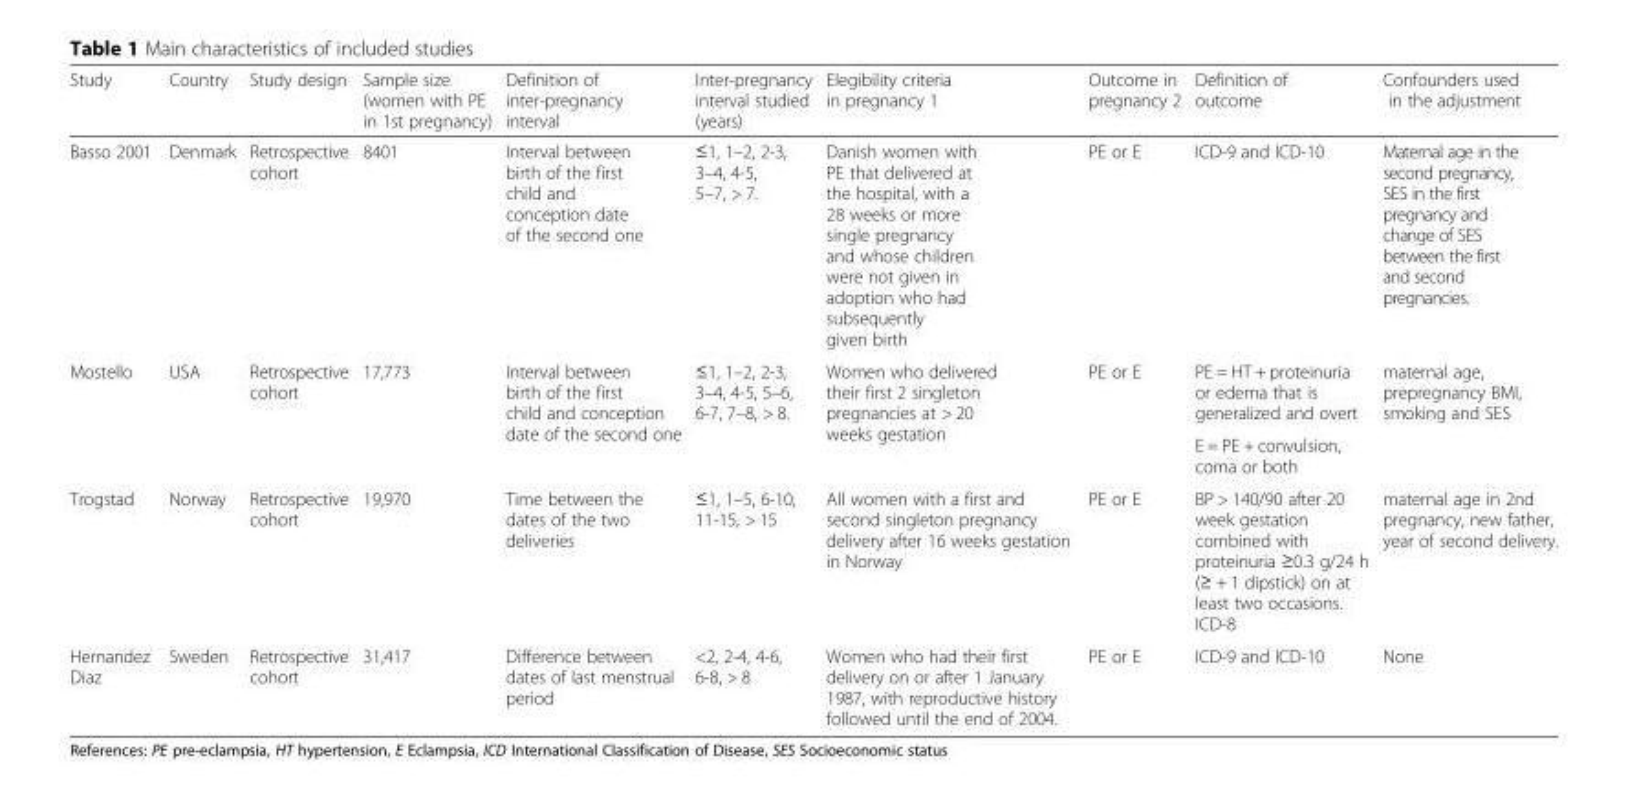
<table><thead><tr><td>Study</td><td>Country</td><td>Study design</td><td>Sample size (women with PE in 1st pregnancy)</td><td>Definition of inter-pregnancy interval</td><td>Inter-pregnancy interval studied (years)</td><td>Elegibility criteria in pregnancy 1</td><td>Outcome in pregnancy 2</td><td>Definition of outcome</td><td>Confounders used in the adjustment</td></tr></thead><tbody><tr><td>Basso 2001</td><td>Denmark</td><td>Retrospective cohort</td><td>8401</td><td>Interval between birth of the first child and conception date of the second one</td><td>≤1, 1–2, 2-3, 3–4, 4-5, 5–7, &gt; 7.</td><td>Danish women with PE that delivered at the hospital, with a 28 weeks or more single pregnancy and whose children were not given in adoption who had subsequently given birth</td><td>PE or E</td><td>ICD-9 and ICD-10</td><td>Maternal age in the second pregnancy, SES in the first pregnancy and change of SES between the first and second pregnancies.</td></tr><tr><td rowspan="2">Mostello</td><td rowspan="2">USA</td><td rowspan="2">Retrospective cohort</td><td rowspan="2">17,773</td><td rowspan="2">Interval between birth of the first child and conception date of the second one</td><td rowspan="2">≤1, 1–2, 2-3, 3–4, 4-5, 5–6, 6-7, 7–8, &gt; 8.</td><td rowspan="2">Women who delivered their first 2 singleton pregnancies at &gt; 20 weeks gestation</td><td rowspan="2">PE or E</td><td>PE = HT + proteinuria or edema that is generalized and overt</td><td rowspan="2">maternal age, prepregnancy BMI, smoking and SES</td></tr><tr><td>E = PE + convulsion, coma or both</td></tr><tr><td>Trogstad</td><td>Norway</td><td>Retrospective cohort</td><td>19,970</td><td>Time between the dates of the two deliveries</td><td>≤1, 1–5, 6-10, 11-15, &gt; 15</td><td>All women with a first and second singleton pregnancy delivery after 16 weeks gestation in Norway</td><td>PE or E</td><td>BP &gt; 140/90 after 20 week gestation combined with proteinuria ≥0.3 g/24 h (≥ + 1 dipstick) on at least two occasions. ICD-8</td><td>maternal age in 2nd pregnancy, new father, year of second delivery.</td></tr><tr><td>Hernandez Diaz</td><td>Sweden</td><td>Retrospective cohort</td><td>31,417</td><td>Difference between dates of last menstrual period</td><td>&lt;2, 2-4, 4-6, 6-8, &gt; 8</td><td>Women who had their first delivery on or after 1 January 1987, with reproductive history followed until the end of 2004.</td><td>PE or E</td><td>ICD-9 and ICD-10</td><td>None</td></tr></tbody></table>